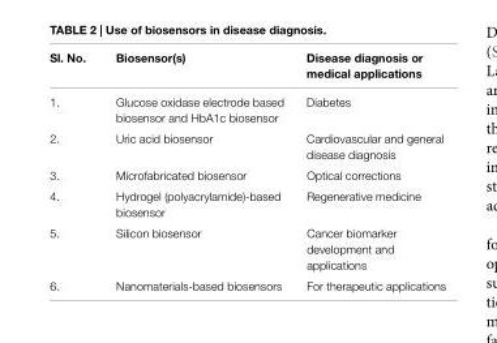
<table><thead><tr><td>Sl. No.</td><td>Biosensor(s)</td><td>Disease diagnosis or medical applications</td></tr></thead><tbody><tr><td>1.</td><td>Glucose oxidase electrode based biosensor and HbA1c biosensor</td><td>Diabetes</td></tr><tr><td>2.</td><td>Uric acid biosensor</td><td>Cardiovascular and general disease diagnosis</td></tr><tr><td>3.</td><td>Microfabricated biosensor</td><td>Optical corrections</td></tr><tr><td>4.</td><td>Hydrogel (polyacrylamide)-based biosensor</td><td>Regenerative medicine</td></tr><tr><td>5.</td><td>Silicon biosensor</td><td>Cancer biomarker development and applications</td></tr><tr><td>6.</td><td>Nanomaterials-based biosensors</td><td>For therapeutic applications</td></tr></tbody></table>